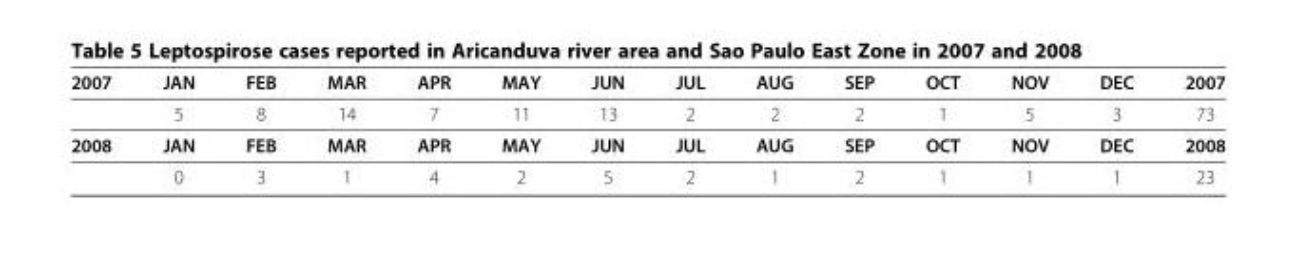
<table><tbody><tr><td rowspan="2">2007</td><td>JAN</td><td>FEB</td><td>MAR</td><td>APR</td><td>MAY</td><td>JUN</td><td>JUL</td><td>AUG</td><td>SEP</td><td>OCT</td><td>NOV</td><td>DEC</td><td>2007</td></tr><tr><td>5</td><td>8</td><td>14</td><td>7</td><td>11</td><td>13</td><td>2</td><td>2</td><td>2</td><td>1</td><td>5</td><td>3</td><td>73</td></tr><tr><td rowspan="2">2008</td><td>JAN</td><td>FEB</td><td>MAR</td><td>APR</td><td>MAY</td><td>JUN</td><td>JUL</td><td>AUG</td><td>SEP</td><td>OCT</td><td>NOV</td><td>DEC</td><td>2008</td></tr><tr><td>0</td><td>3</td><td>1</td><td>4</td><td>2</td><td>5</td><td>2</td><td>1</td><td>2</td><td>1</td><td>1</td><td>1</td><td>23</td></tr></tbody></table>